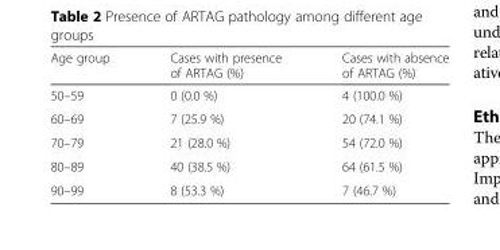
<table><thead><tr><td>Age group</td><td>Cases with presence of ARTAG (%)</td><td>Cases with absence of ARTAG (%)</td></tr></thead><tbody><tr><td>50–59</td><td>0 (0.0 %)</td><td>4 (100.0 %)</td></tr><tr><td>60–69</td><td>7 (25.9 %)</td><td>20 (74.1 %)</td></tr><tr><td>70–79</td><td>21 (28.0 %)</td><td>54 (72.0 %)</td></tr><tr><td>80–89</td><td>40 (38.5 %)</td><td>64 (61.5 %)</td></tr><tr><td>90–99</td><td>8 (53.3 %)</td><td>7 (46.7 %)</td></tr></tbody></table>